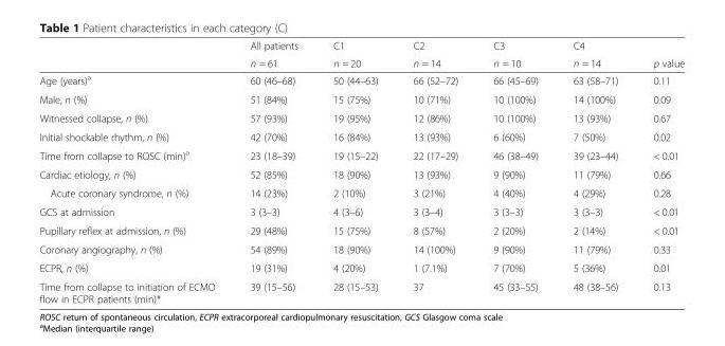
<table><thead><tr><td rowspan="2"></td><td rowspan="2">All patients n = 61</td><td rowspan="2">C1 n = 20</td><td rowspan="2">C2 n = 14</td><td rowspan="2">C3 n = 10</td><td rowspan="2">C4 n = 14</td><td rowspan="2">p value</td></tr><tr></tr></thead><tbody><tr><td>Age (years)<sup>a</sup></td><td>60 (46–68)</td><td>50 (44–63)</td><td>66 (52–72)</td><td>66 (45–69)</td><td>63 (58–71)</td><td>0.11</td></tr><tr><td>Male, n (%)</td><td>51 (84%)</td><td>15 (75%)</td><td>10 (71%)</td><td>10 (100%)</td><td>14 (100%)</td><td>0.09</td></tr><tr><td>Witnessed collapse, n (%)</td><td>57 (93%)</td><td>19 (95%)</td><td>12 (86%)</td><td>10 (100%)</td><td>13 (93%)</td><td>0.67</td></tr><tr><td>Initial shockable rhythm, n (%)</td><td>42 (70%)</td><td>16 (84%)</td><td>13 (93%)</td><td>6 (60%)</td><td>7 (50%)</td><td>0.02</td></tr><tr><td>Time from collapse to ROSC (min)<sup>a</sup></td><td>23 (18–39)</td><td>19 (15–22)</td><td>22 (17–29)</td><td>46 (38–49)</td><td>39 (23–44)</td><td>&lt; 0.01</td></tr><tr><td>Cardiac etiology, n (%)</td><td>52 (85%)</td><td>18 (90%)</td><td>13 (93%)</td><td>9 (90%)</td><td>11 (79%)</td><td>0.66</td></tr><tr><td>Acute coronary syndrome, n (%)</td><td>14 (23%)</td><td>2 (10%)</td><td>3 (21%)</td><td>4 (40%)</td><td>4 (29%)</td><td>0.28</td></tr><tr><td>GCS at admission</td><td>3 (3–3)</td><td>4 (3–6)</td><td>3 (3–4)</td><td>3 (3–3)</td><td>3 (3–3)</td><td>&lt; 0.01</td></tr><tr><td>Pupillary reflex at admission, n (%)</td><td>29 (48%)</td><td>15 (75%)</td><td>8 (57%)</td><td>2 (20%)</td><td>2 (14%)</td><td>&lt; 0.01</td></tr><tr><td>Coronary angiography, n (%)</td><td>54 (89%)</td><td>18 (90%)</td><td>14 (100%)</td><td>9 (90%)</td><td>11 (79%)</td><td>0.33</td></tr><tr><td>ECPR, n (%)</td><td>19 (31%)</td><td>4 (20%)</td><td>1 (7.1%)</td><td>7 (70%)</td><td>5 (36%)</td><td>0.01</td></tr><tr><td>Time from collapse to initiation of ECMO flow in ECPR patients (min)*</td><td>39 (15–56)</td><td>28 (15–53)</td><td>37</td><td>45 (33–55)</td><td>48 (38–56)</td><td>0.13</td></tr></tbody></table>